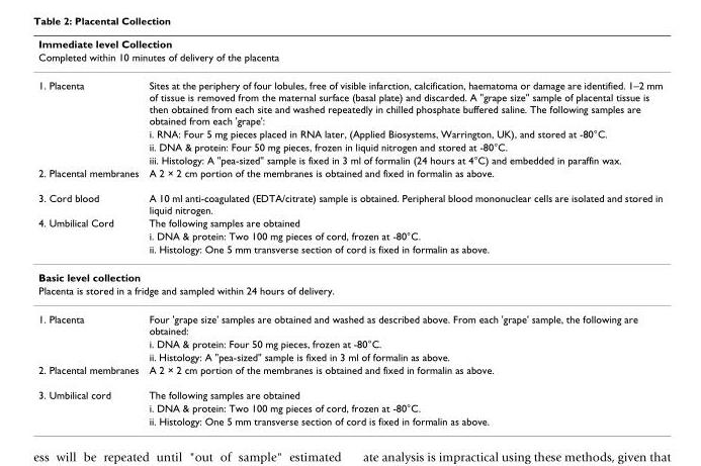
<table><thead><tr><td rowspan="2" colspan="2">Immediate level Collection Completed within 10 minutes of delivery of the placenta</td></tr><tr></tr><tr><td>1. Placenta</td><td>Sites at the periphery of four lobules, free of visible infarction, calcification, haematoma or damage are identified. 1–2 mm of tissue is removed from the maternal surface (basal plate) and discarded. A &quot;grape size&quot; sample of placental tissue is then obtained from each site and washed repeatedly in chilled phosphate buffered saline. The following samples are obtained from each &#x27;grape&#x27;:</td></tr></thead><tbody><tr><td></td><td>i. RNA: Four 5 mg pieces placed in RNA later, (Applied Biosystems, Warrington, UK), and stored at -80°C.</td></tr><tr><td></td><td>ii. DNA &amp; protein: Four 50 mg pieces, frozen in liquid nitrogen and stored at -80°C.</td></tr><tr><td></td><td>iii. Histology: A &quot;pea-sized&quot; sample is fixed in 3 ml of formalin (24 hours at 4°C) and embedded in paraffin wax.</td></tr><tr><td>2. Placental membranes</td><td>A 2 × 2 cm portion of the membranes is obtained and fixed in formalin as above.</td></tr><tr><td>3. Cord blood</td><td>A 10 ml anti-coagulated (EDTA/citrate) sample is obtained. Peripheral blood mononuclear cells are isolated and stored in liquid nitrogen.</td></tr><tr><td rowspan="3">4. Umbilical Cord</td><td>The following samples are obtained</td></tr><tr><td>i. DNA &amp; protein: Two 100 mg pieces of cord, frozen at -80°C.</td></tr><tr><td>ii. Histology: One 5 mm transverse section of cord is fixed in formalin as above.</td></tr><tr><td colspan="2">Basic level collection</td></tr><tr><td colspan="2">Placenta is stored in a fridge and sampled within 24 hours of delivery.</td></tr><tr><td rowspan="3">1. Placenta</td><td>Four &#x27;grape size&#x27; samples are obtained and washed as described above. From each &#x27;grape&#x27; sample, the following are obtained:</td></tr><tr><td>i. DNA &amp; protein: Four 50 mg pieces, frozen at -80°C.</td></tr><tr><td>ii. Histology: A &quot;pea-sized&quot; sample is fixed in 3 ml of formalin as above.</td></tr><tr><td>2. Placental membranes</td><td>A 2 × 2 cm portion of the membranes is obtained and fixed in formalin as above.</td></tr><tr><td rowspan="3">3. Umbilical cord</td><td>The following samples are obtained</td></tr><tr><td>i. DNA &amp; protein: Two 100 mg pieces of cord, frozen at -80°C.</td></tr><tr><td>ii. Histology: One 5 mm transverse section of cord is fixed in formalin as above.</td></tr></tbody></table>